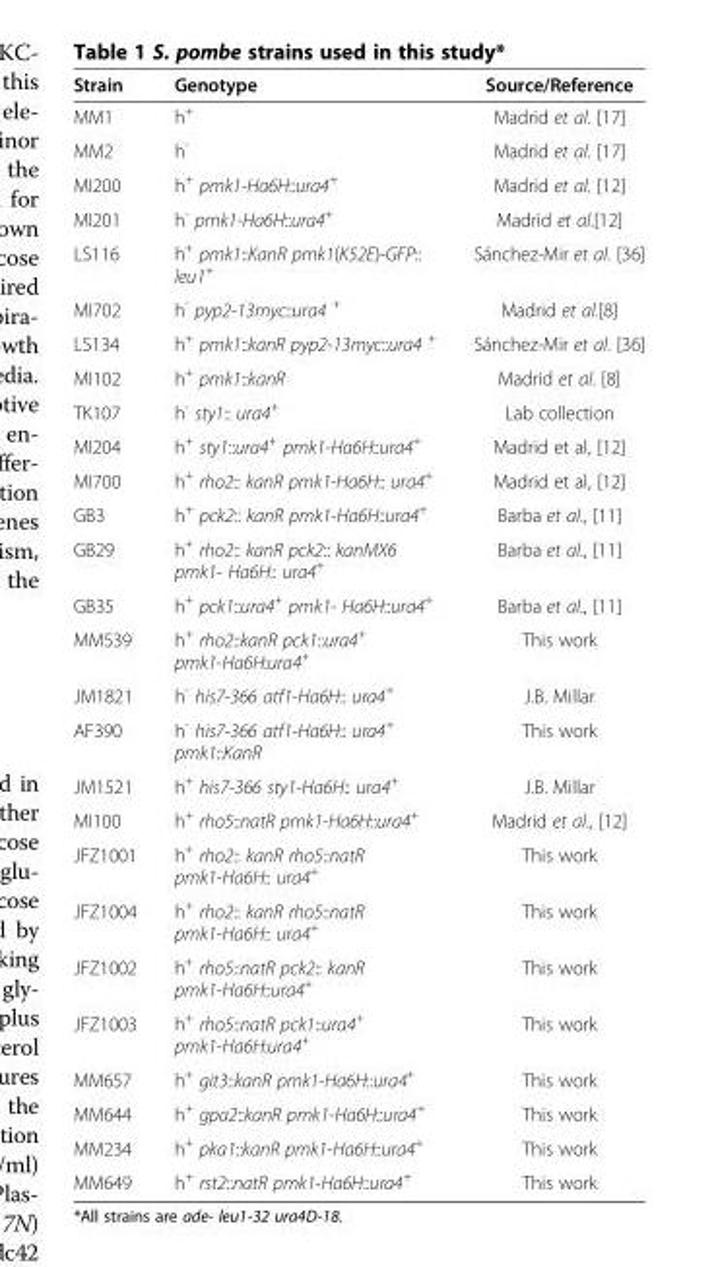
<table><thead><tr><td>Strain</td><td>Genotype</td><td>Source/Reference</td></tr></thead><tbody><tr><td>MM1</td><td>h<sup>+</sup></td><td>Madrid et al. [17]</td></tr><tr><td>MM2</td><td>h<sup>-</sup></td><td>Madrid et al. [17]</td></tr><tr><td>MI200</td><td>h<sup>+</sup> pmk1-Ha6H::ura4<sup>+</sup></td><td>Madrid et al. [12]</td></tr><tr><td>MI201</td><td>h<sup>-</sup> pmk1-Ha6H::ura4<sup>+</sup></td><td>Madrid et al.[12]</td></tr><tr><td>LS116</td><td>h<sup>+</sup> pmk1::KanR pmk1(K52E)-GFP:: leu1<sup>+</sup></td><td>Sánchez-Mir et al. [36]</td></tr><tr><td>MI702</td><td>h<sup>-</sup> pyp2-13myc::ura4 <sup>+</sup></td><td>Madrid et al.[8]</td></tr><tr><td>LS134</td><td>h<sup>+</sup> pmk1::kanR pyp2-13myc::ura4 <sup>+</sup></td><td>Sánchez-Mir et al. [36]</td></tr><tr><td>MI102</td><td>h<sup>+</sup> pmk1::kanR</td><td>Madrid et al. [8]</td></tr><tr><td>TK107</td><td>h<sup>-</sup> sty1:: ura4<sup>+</sup></td><td>Lab collection</td></tr><tr><td>MI204</td><td>h<sup>+</sup> sty1::ura4<sup>+</sup> pmk1-Ha6H::ura4<sup>+</sup></td><td>Madrid et al, [12]</td></tr><tr><td>MI700</td><td>h<sup>+</sup> rho2:: kanR pmk1-Ha6H:: ura4<sup>+</sup></td><td>Madrid et al, [12]</td></tr><tr><td>GB3</td><td>h<sup>+</sup> pck2:: kanR pmk1-Ha6H::ura4<sup>+</sup></td><td>Barba et al., [11]</td></tr><tr><td>GB29</td><td>h<sup>+</sup> rho2:: kanR pck2:: kanMX6 pmk1- Ha6H:: ura4<sup>+</sup></td><td>Barba et al., [11]</td></tr><tr><td>GB35</td><td>h<sup>+</sup> pck1::ura4<sup>+</sup> pmk1- Ha6H::ura4<sup>+</sup></td><td>Barba et al., [11]</td></tr><tr><td>MM539</td><td>h<sup>+</sup> rho2::kanR pck1::ura4<sup>+</sup> pmk1-Ha6H:ura4<sup>+</sup></td><td>This work</td></tr><tr><td>JM1821</td><td>h<sup>-</sup> his7-366 atf1-Ha6H:: ura4<sup>+</sup></td><td>J.B. Millar</td></tr><tr><td>AF390</td><td>h<sup>-</sup> his7-366 atf1-Ha6H:: ura4<sup>+</sup> pmk1::KanR</td><td>This work</td></tr><tr><td>JM1521</td><td>h<sup>+</sup> his7-366 sty1-Ha6H:: ura4<sup>+</sup></td><td>J.B. Millar</td></tr><tr><td>MI100</td><td>h<sup>+</sup> rho5::natR pmk1-Ha6H::ura4<sup>+</sup></td><td>Madrid et al., [12]</td></tr><tr><td>JFZ1001</td><td>h<sup>+</sup> rho2:: kanR rho5::natR pmk1-Ha6H:: ura4<sup>+</sup></td><td>This work</td></tr><tr><td>JFZ1004</td><td>h<sup>+</sup> rho2:: kanR rho5::natR pmk1-Ha6H:: ura4<sup>+</sup></td><td>This work</td></tr><tr><td>JFZ1002</td><td>h<sup>+</sup> rho5::natR pck2:: kanR pmk1-Ha6H::ura4<sup>+</sup></td><td>This work</td></tr><tr><td>JFZ1003</td><td>h<sup>+</sup> rho5::natR pck1::ura4<sup>+</sup> pmk1-Ha6H:ura4<sup>+</sup></td><td>This work</td></tr><tr><td>MM657</td><td>h<sup>+</sup> git3::kanR pmk1-Ha6H::ura4<sup>+</sup></td><td>This work</td></tr><tr><td>MM644</td><td>h<sup>+</sup> gpa2::kanR pmk1-Ha6H::ura4<sup>+</sup></td><td>This work</td></tr><tr><td>MM234</td><td>h<sup>+</sup> pka1::kanR pmk1-Ha6H::ura4<sup>+</sup></td><td>This work</td></tr><tr><td>MM649</td><td>h<sup>+</sup> rst2::natR pmk1-Ha6H::ura4<sup>+</sup></td><td>This work</td></tr></tbody></table>